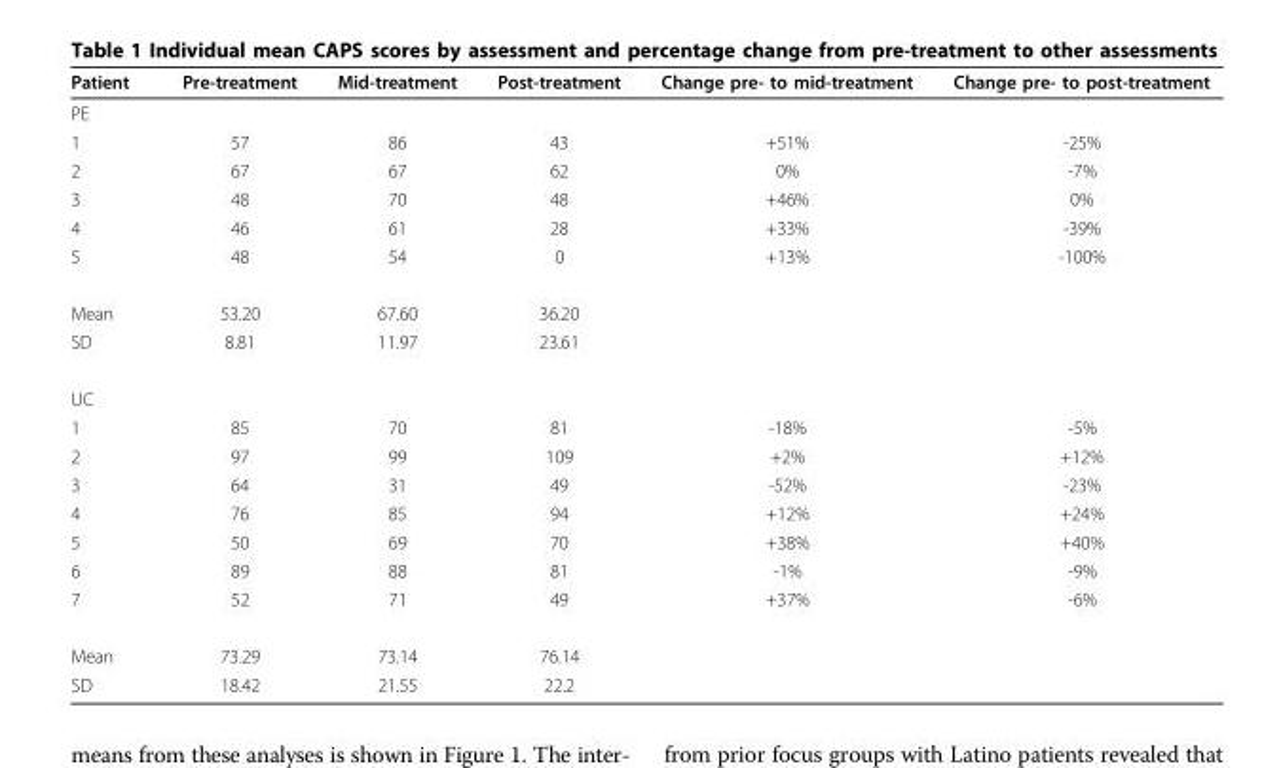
<table><thead><tr><td>Patient</td><td>Pre-treatment</td><td>Mid-treatment</td><td>Post-treatment</td><td>Change pre- to mid-treatment</td><td>Change pre- to post-treatment</td></tr></thead><tbody><tr><td colspan="6">PE</td></tr><tr><td>1</td><td>57</td><td>86</td><td>43</td><td>+51%</td><td>-25%</td></tr><tr><td>2</td><td>67</td><td>67</td><td>62</td><td>0%</td><td>-7%</td></tr><tr><td>3</td><td>48</td><td>70</td><td>48</td><td>+46%</td><td>0%</td></tr><tr><td>4</td><td>46</td><td>61</td><td>28</td><td>+33%</td><td>-39%</td></tr><tr><td>5</td><td>48</td><td>54</td><td>0</td><td>+13%</td><td>-100%</td></tr><tr><td>Mean</td><td>53.20</td><td>67.60</td><td>36.20</td><td></td><td></td></tr><tr><td>SD</td><td>8.81</td><td>11.97</td><td>23.61</td><td></td><td></td></tr><tr><td colspan="6">UC</td></tr><tr><td>1</td><td>85</td><td>70</td><td>81</td><td>-18%</td><td>-5%</td></tr><tr><td>2</td><td>97</td><td>99</td><td>109</td><td>+2%</td><td>+12%</td></tr><tr><td>3</td><td>64</td><td>31</td><td>49</td><td>-52%</td><td>-23%</td></tr><tr><td>4</td><td>76</td><td>85</td><td>94</td><td>+12%</td><td>+24%</td></tr><tr><td>5</td><td>50</td><td>69</td><td>70</td><td>+38%</td><td>+40%</td></tr><tr><td>6</td><td>89</td><td>88</td><td>81</td><td>-1%</td><td>-9%</td></tr><tr><td>7</td><td>52</td><td>71</td><td>49</td><td>+37%</td><td>-6%</td></tr><tr><td>Mean</td><td>73.29</td><td>73.14</td><td>76.14</td><td></td><td></td></tr><tr><td>SD</td><td>18.42</td><td>21.55</td><td>22.2</td><td></td><td></td></tr></tbody></table>